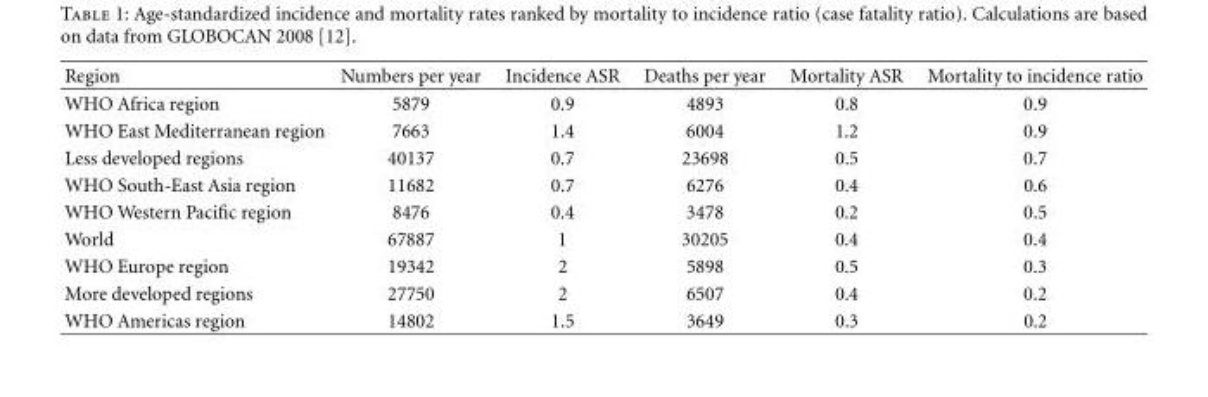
<table><thead><tr><td>Region</td><td>Numbers per year</td><td>Incidence ASR</td><td>Deaths per year</td><td>Mortality ASR</td><td>Mortality to incidence ratio</td></tr></thead><tbody><tr><td>WHO Africa region</td><td>5879</td><td>0.9</td><td>4893</td><td>0.8</td><td>0.9</td></tr><tr><td>WHO East Mediterranean region</td><td>7663</td><td>1.4</td><td>6004</td><td>1.2</td><td>0.9</td></tr><tr><td>Less developed regions</td><td>40137</td><td>0.7</td><td>23698</td><td>0.5</td><td>0.7</td></tr><tr><td>WHO South-East Asia region</td><td>11682</td><td>0.7</td><td>6276</td><td>0.4</td><td>0.6</td></tr><tr><td>WHO Western Pacific region</td><td>8476</td><td>0.4</td><td>3478</td><td>0.2</td><td>0.5</td></tr><tr><td>World</td><td>67887</td><td>1</td><td>30205</td><td>0.4</td><td>0.4</td></tr><tr><td>WHO Europe region</td><td>19342</td><td>2</td><td>5898</td><td>0.5</td><td>0.3</td></tr><tr><td>More developed regions</td><td>27750</td><td>2</td><td>6507</td><td>0.4</td><td>0.2</td></tr><tr><td>WHO Americas region</td><td>14802</td><td>1.5</td><td>3649</td><td>0.3</td><td>0.2</td></tr></tbody></table>